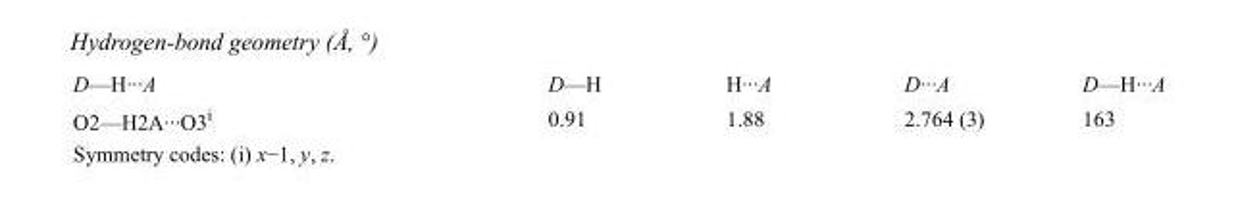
<table><tbody><tr><td>D—H···A</td><td>D—H</td><td>H···A</td><td>D···A</td><td>D—H···A</td></tr><tr><td>O2—H2A···O3<sup>i</sup></td><td>0.91</td><td>1.88</td><td>2.764 (3)</td><td>163</td></tr></tbody></table>